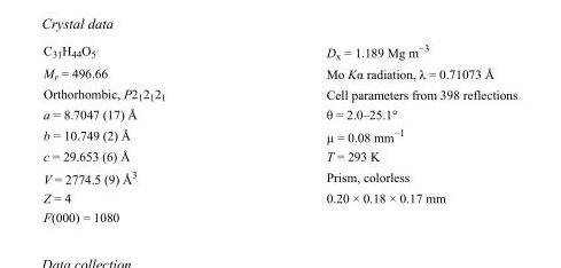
<table><tbody><tr><td>C<sub>31</sub>H<sub>44</sub>O<sub>5</sub></td><td>D<sub>x</sub> = 1.189 Mg m<sup>−3</sup></td></tr><tr><td>M<sub>r</sub> = 496.66</td><td>Mo Kα radiation, λ = 0.71073 Å</td></tr><tr><td>Orthorhombic, P2<sub>1</sub>2<sub>1</sub>2<sub>1</sub></td><td>Cell parameters from 398 reflections</td></tr><tr><td>a = 8.7047 (17) Å</td><td>θ = 2.0–25.1°</td></tr><tr><td>b = 10.749 (2) Å</td><td>µ = 0.08 mm<sup>−1</sup></td></tr><tr><td>c = 29.653 (6) Å</td><td>T = 293 K</td></tr><tr><td>V = 2774.5 (9) Å<sup>3</sup></td><td>Prism, colorless</td></tr><tr><td>Z = 4</td><td>0.20 × 0.18 × 0.17 mm</td></tr><tr><td>F(000) = 1080</td><td></td></tr></tbody></table>